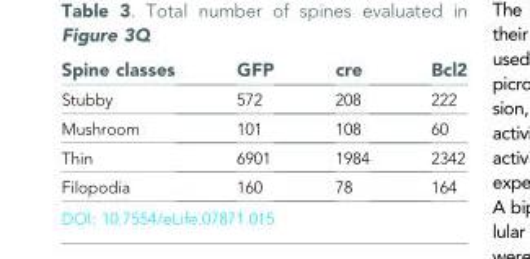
<table><thead><tr><td>Spine classes</td><td>GFP</td><td>cre</td><td>Bcl2</td></tr></thead><tbody><tr><td>Stubby</td><td>572</td><td>208</td><td>222</td></tr><tr><td>Mushroom</td><td>101</td><td>108</td><td>60</td></tr><tr><td>Thin</td><td>6901</td><td>1984</td><td>2342</td></tr><tr><td>Filopodia</td><td>160</td><td>78</td><td>164</td></tr></tbody></table>